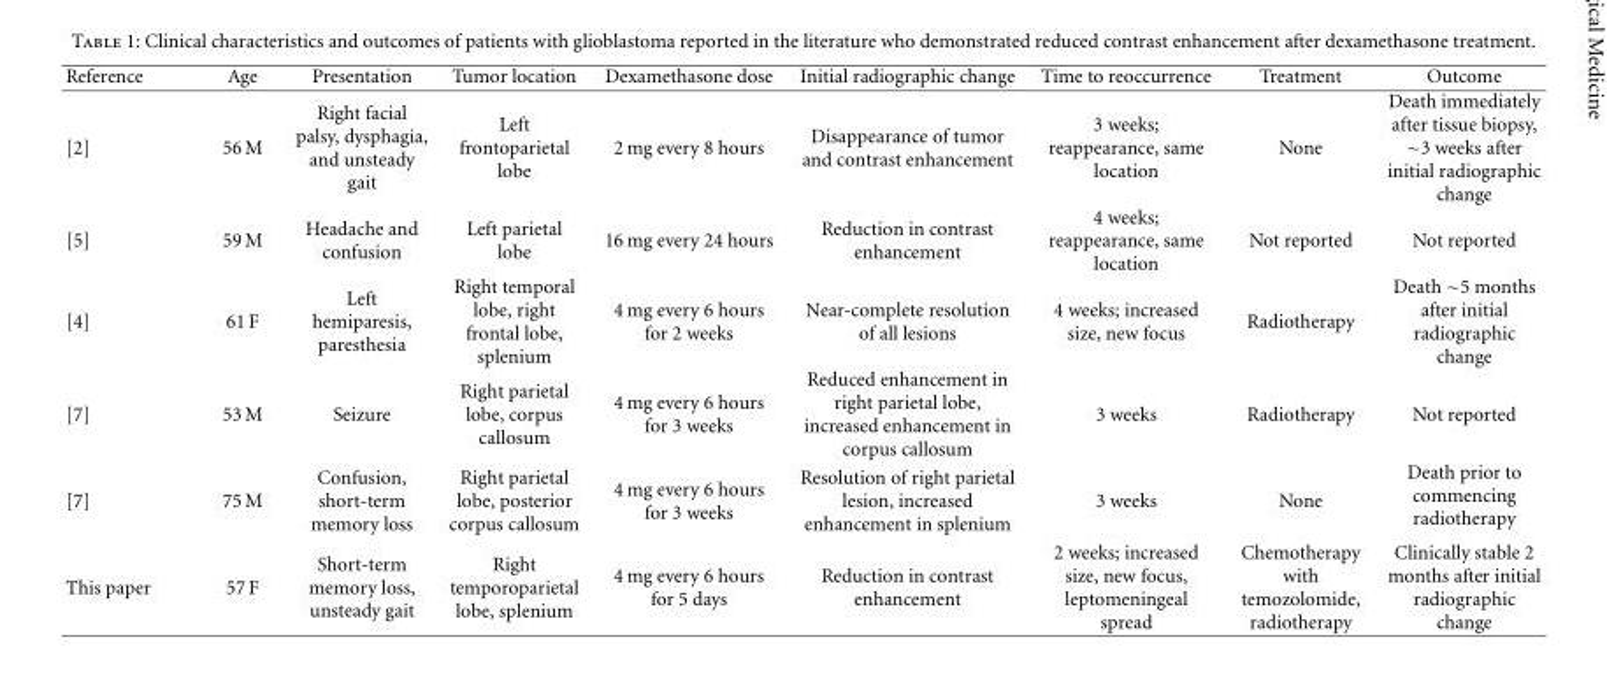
<table><thead><tr><td>Reference</td><td>Age</td><td>Presentation</td><td>Tumor location</td><td>Dexamethasone dose</td><td>Initial radiographic change</td><td>Time to reoccurrence</td><td>Treatment</td><td>Outcome</td></tr></thead><tbody><tr><td>[2]</td><td>56 M</td><td>Right facial palsy, dysphagia, and unsteady gait</td><td>Left frontoparietal lobe</td><td>2 mg every 8 hours</td><td>Disappearance of tumor and contrast enhancement</td><td>3 weeks; reappearance, same location</td><td>None</td><td>Death immediately after tissue biopsy, ∼3 weeks after initial radiographic change</td></tr><tr><td>[5]</td><td>59 M</td><td>Headache and confusion</td><td>Left parietal lobe</td><td>16 mg every 24 hours</td><td>Reduction in contrast enhancement</td><td>4 weeks; reappearance, same location</td><td>Not reported</td><td>Not reported</td></tr><tr><td>[4]</td><td>61 F</td><td>Left hemiparesis, paresthesia</td><td>Right temporal lobe, right frontal lobe, splenium</td><td>4 mg every 6 hours for 2 weeks</td><td>Near-complete resolution of all lesions</td><td>4 weeks; increased size, new focus</td><td>Radiotherapy</td><td>Death ∼5 months after initial radiographic change</td></tr><tr><td>[7]</td><td>53 M</td><td>Seizure</td><td>Right parietal lobe, corpus callosum</td><td>4 mg every 6 hours for 3 weeks</td><td>Reduced enhancement in right parietal lobe, increased enhancement in corpus callosum</td><td>3 weeks</td><td>Radiotherapy</td><td>Not reported</td></tr><tr><td>[7]</td><td>75 M</td><td>Confusion, short-term memory loss</td><td>Right parietal lobe, posterior corpus callosum</td><td>4 mg every 6 hours for 3 weeks</td><td>Resolution of right parietal lesion, increased enhancement in splenium</td><td>3 weeks</td><td>None</td><td>Death prior to commencing radiotherapy</td></tr><tr><td>This paper</td><td>57 F</td><td>Short-term memory loss, unsteady gait</td><td>Right temporoparietal lobe, splenium</td><td>4 mg every 6 hours for 5 days</td><td>Reduction in contrast enhancement</td><td>2 weeks; increased size, new focus, leptomeningeal spread</td><td>Chemotherapy with temozolomide, radiotherapy</td><td>Clinically stable 2 months after initial radiographic change</td></tr></tbody></table>